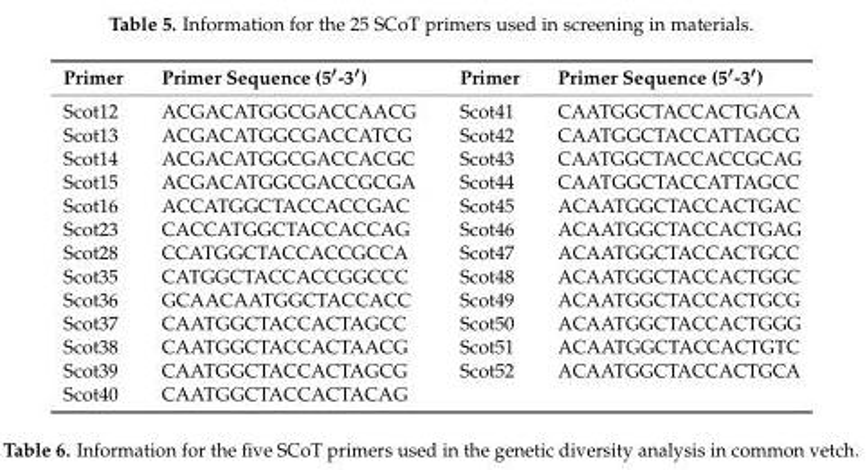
<table><thead><tr><td>Primer</td><td>Primer Sequence (5′-3′)</td><td>Primer</td><td>Primer Sequence (5′-3′)</td></tr></thead><tbody><tr><td>Scot12</td><td>ACGACATGGCGACCAACG</td><td>Scot41</td><td>CAATGGCTACCACTGACA</td></tr><tr><td>Scot13</td><td>ACGACATGGCGACCATCG</td><td>Scot42</td><td>CAATGGCTACCATTAGCG</td></tr><tr><td>Scot14</td><td>ACGACATGGCGACCACGC</td><td>Scot43</td><td>CAATGGCTACCACCGCAG</td></tr><tr><td>Scot15</td><td>ACGACATGGCGACCGCGA</td><td>Scot44</td><td>CAATGGCTACCATTAGCC</td></tr><tr><td>Scot16</td><td>ACCATGGCTACCACCGAC</td><td>Scot45</td><td>ACAATGGCTACCACTGAC</td></tr><tr><td>Scot23</td><td>CACCATGGCTACCACCAG</td><td>Scot46</td><td>ACAATGGCTACCACTGAG</td></tr><tr><td>Scot28</td><td>CCATGGCTACCACCGCCA</td><td>Scot47</td><td>ACAATGGCTACCACTGCC</td></tr><tr><td>Scot35</td><td>CATGGCTACCACCGGCCC</td><td>Scot48</td><td>ACAATGGCTACCACTGGC</td></tr><tr><td>Scot36</td><td>GCAACAATGGCTACCACC</td><td>Scot49</td><td>ACAATGGCTACCACTGCG</td></tr><tr><td>Scot37</td><td>CAATGGCTACCACTAGCC</td><td>Scot50</td><td>ACAATGGCTACCACTGGG</td></tr><tr><td>Scot38</td><td>CAATGGCTACCACTAACG</td><td>Scot51</td><td>ACAATGGCTACCACTGTC</td></tr><tr><td>Scot39</td><td>CAATGGCTACCACTAGCG</td><td>Scot52</td><td>ACAATGGCTACCACTGCA</td></tr><tr><td>Scot40</td><td>CAATGGCTACCACTACAG</td><td></td><td></td></tr></tbody></table>